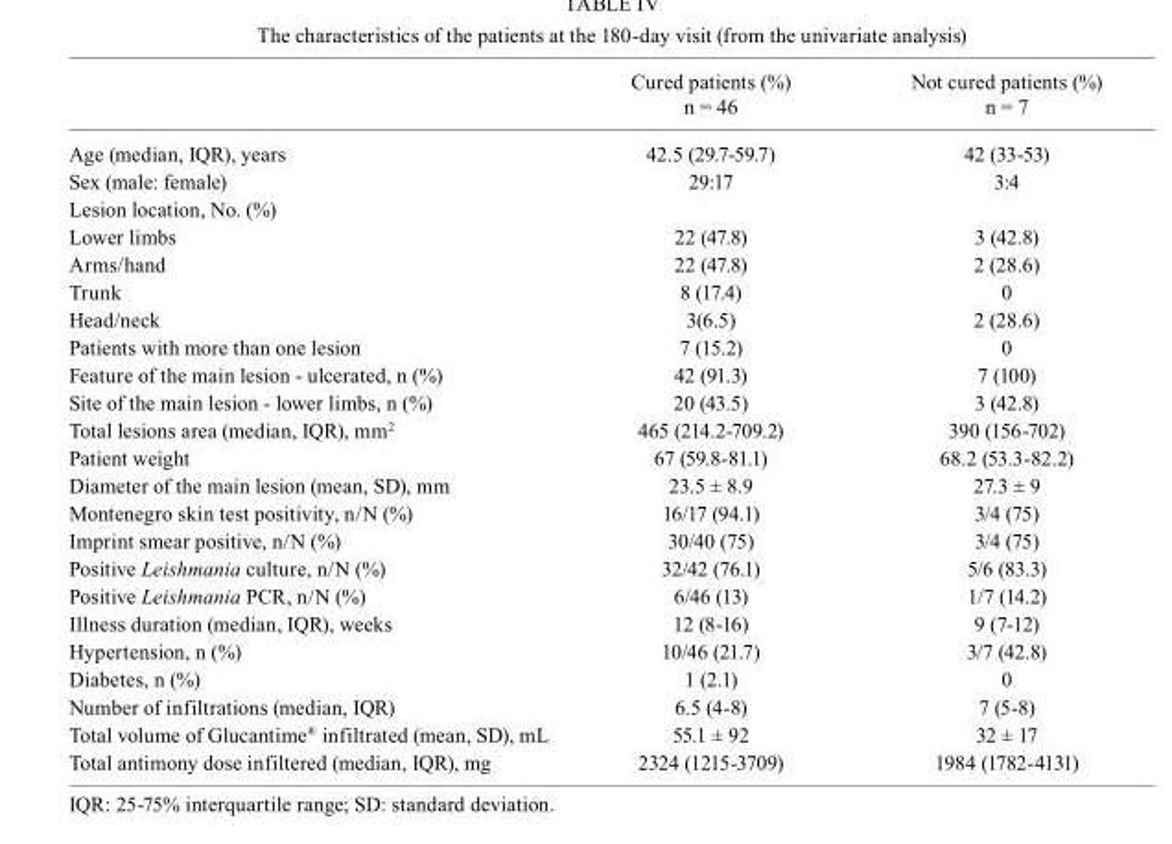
<table><thead><tr><td></td><td>Cured patients (%) n = 46</td><td>Not cured patients (%) n = 7</td></tr></thead><tbody><tr><td>Age (median, IQR), years</td><td>42.5 (29.7-59.7)</td><td>42 (33-53)</td></tr><tr><td>Sex (male: female)</td><td>29:17</td><td>3:4</td></tr><tr><td colspan="3">Lesion location, No. (%)</td></tr><tr><td>Lower limbs</td><td>22 (47.8)</td><td>3 (42.8)</td></tr><tr><td>Arms/hand</td><td>22 (47.8)</td><td>2 (28.6)</td></tr><tr><td>Trunk</td><td>8 (17.4)</td><td>0</td></tr><tr><td>Head/neck</td><td>3(6.5)</td><td>2 (28.6)</td></tr><tr><td>Patients with more than one lesion</td><td>7 (15.2)</td><td>0</td></tr><tr><td>Feature of the main lesion - ulcerated, n (%)</td><td>42 (91.3)</td><td>7 (100)</td></tr><tr><td>Site of the main lesion - lower limbs, n (%)</td><td>20 (43.5)</td><td>3 (42.8)</td></tr><tr><td>Total lesions area (median, IQR), mm<sup>2</sup></td><td>465 (214.2-709.2)</td><td>390 (156-702)</td></tr><tr><td>Patient weight</td><td>67 (59.8-81.1)</td><td>68.2 (53.3-82.2)</td></tr><tr><td>Diameter of the main lesion (mean, SD), mm</td><td>23.5 ± 8.9</td><td>27.3 ± 9</td></tr><tr><td>Montenegro skin test positivity, n/N (%)</td><td>16/17 (94.1)</td><td>3/4 (75)</td></tr><tr><td>Imprint smear positive, n/N (%)</td><td>30/40 (75)</td><td>3/4 (75)</td></tr><tr><td>Positive Leishmania culture, n/N (%)</td><td>32/42 (76.1)</td><td>5/6 (83.3)</td></tr><tr><td>Positive Leishmania PCR, n/N (%)</td><td>6/46 (13)</td><td>1/7 (14.2)</td></tr><tr><td>Illness duration (median, IQR), weeks</td><td>12 (8-16)</td><td>9 (7-12)</td></tr><tr><td>Hypertension, n (%)</td><td>10/46 (21.7)</td><td>3/7 (42.8)</td></tr><tr><td>Diabetes, n (%)</td><td>1 (2.1)</td><td>0</td></tr><tr><td>Number of infiltrations (median, IQR)</td><td>6.5 (4-8)</td><td>7 (5-8)</td></tr><tr><td>Total volume of Glucantime<sup>®</sup> infiltrated (mean, SD), mL</td><td>55.1 ± 92</td><td>32 ± 17</td></tr><tr><td>Total antimony dose infiltered (median, IQR), mg</td><td>2324 (1215-3709)</td><td>1984 (1782-4131)</td></tr></tbody></table>